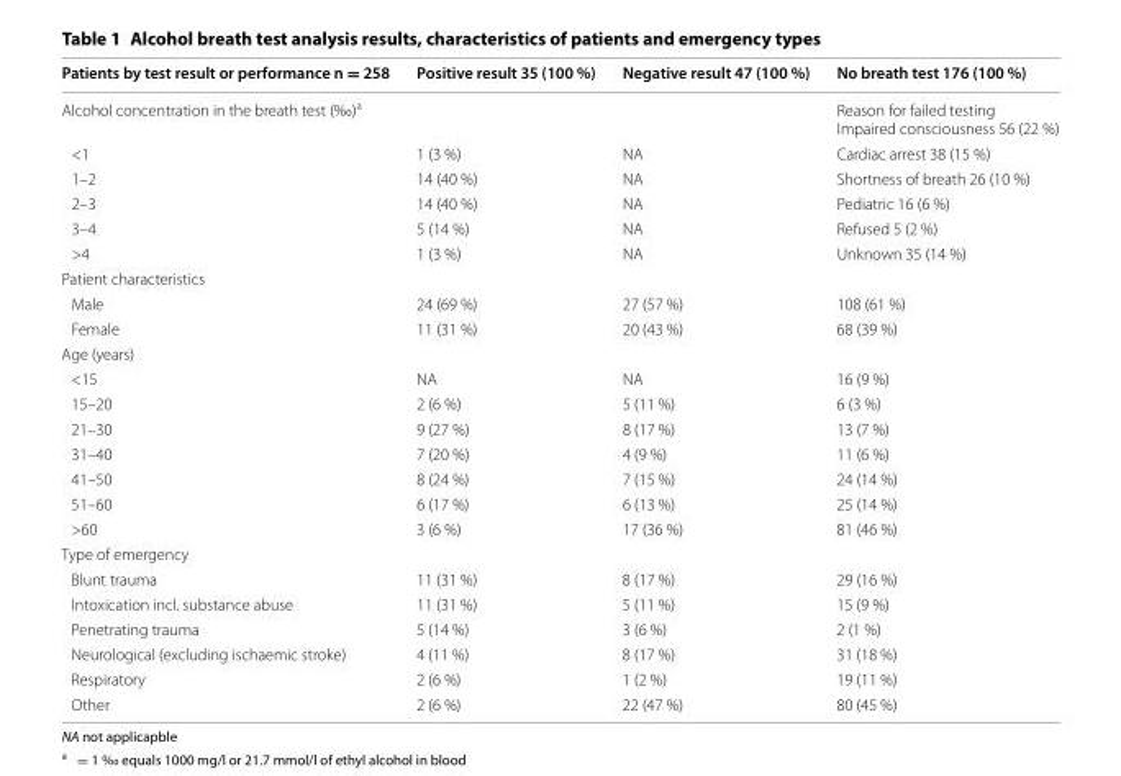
<table><thead><tr><td>Patients by test result or performance n = 258</td><td>Positive result 35 (100 %)</td><td>Negative result 47 (100 %)</td><td>No breath test 176 (100 %)</td></tr></thead><tbody><tr><td>Alcohol concentration in the breath test (‰)<sup>a</sup></td><td></td><td></td><td>Reason for failed testing Impaired consciousness 56 (22 %)</td></tr><tr><td>&lt;1</td><td>1 (3 %)</td><td>NA</td><td>Cardiac arrest 38 (15 %)</td></tr><tr><td>1–2</td><td>14 (40 %)</td><td>NA</td><td>Shortness of breath 26 (10 %)</td></tr><tr><td>2–3</td><td>14 (40 %)</td><td>NA</td><td>Pediatric 16 (6 %)</td></tr><tr><td>3–4</td><td>5 (14 %)</td><td>NA</td><td>Refused 5 (2 %)</td></tr><tr><td>&gt;4</td><td>1 (3 %)</td><td>NA</td><td>Unknown 35 (14 %)</td></tr><tr><td colspan="4">Patient characteristics</td></tr><tr><td>Male</td><td>24 (69 %)</td><td>27 (57 %)</td><td>108 (61 %)</td></tr><tr><td>Female</td><td>11 (31 %)</td><td>20 (43 %)</td><td>68 (39 %)</td></tr><tr><td colspan="4">Age (years)</td></tr><tr><td>&lt;15</td><td>NA</td><td>NA</td><td>16 (9 %)</td></tr><tr><td>15–20</td><td>2 (6 %)</td><td>5 (11 %)</td><td>6 (3 %)</td></tr><tr><td>21–30</td><td>9 (27 %)</td><td>8 (17 %)</td><td>13 (7 %)</td></tr><tr><td>31–40</td><td>7 (20 %)</td><td>4 (9 %)</td><td>11 (6 %)</td></tr><tr><td>41–50</td><td>8 (24 %)</td><td>7 (15 %)</td><td>24 (14 %)</td></tr><tr><td>51–60</td><td>6 (17 %)</td><td>6 (13 %)</td><td>25 (14 %)</td></tr><tr><td>&gt;60</td><td>3 (6 %)</td><td>17 (36 %)</td><td>81 (46 %)</td></tr><tr><td colspan="4">Type of emergency</td></tr><tr><td>Blunt trauma</td><td>11 (31 %)</td><td>8 (17 %)</td><td>29 (16 %)</td></tr><tr><td>Intoxication incl. substance abuse</td><td>11 (31 %)</td><td>5 (11 %)</td><td>15 (9 %)</td></tr><tr><td>Penetrating trauma</td><td>5 (14 %)</td><td>3 (6 %)</td><td>2 (1 %)</td></tr><tr><td>Neurological (excluding ischaemic stroke)</td><td>4 (11 %)</td><td>8 (17 %)</td><td>31 (18 %)</td></tr><tr><td>Respiratory</td><td>2 (6 %)</td><td>1 (2 %)</td><td>19 (11 %)</td></tr><tr><td>Other</td><td>2 (6 %)</td><td>22 (47 %)</td><td>80 (45 %)</td></tr></tbody></table>